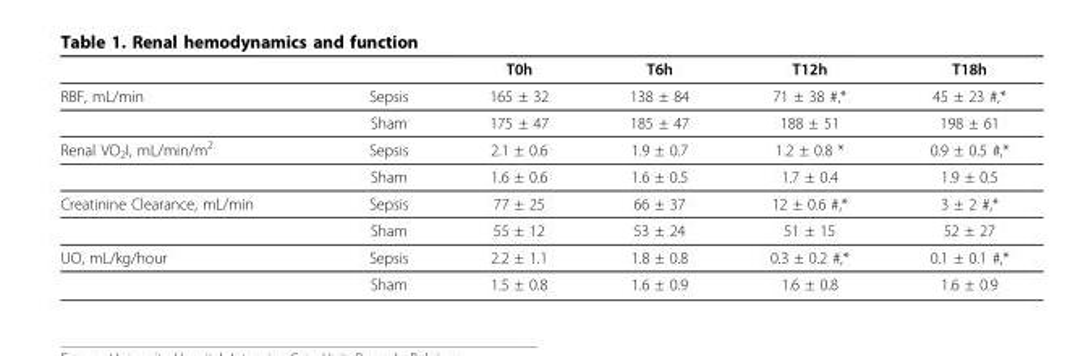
<table><thead><tr><td></td><td></td><td>T0h</td><td>T6h</td><td>T12h</td><td>T18h</td></tr></thead><tbody><tr><td rowspan="2">RBF, mL/min</td><td>Sepsis</td><td>165 ± 32</td><td>138 ± 84</td><td>71 ± 38 #,*</td><td>45 ± 23 #,*</td></tr><tr><td>Sham</td><td>175 ± 47</td><td>185 ± 47</td><td>188 ± 51</td><td>198 ± 61</td></tr><tr><td rowspan="2">Renal VO<sub>2</sub>I, mL/min/m<sup>2</sup></td><td>Sepsis</td><td>2.1 ± 0.6</td><td>1.9 ± 0.7</td><td>1.2 ± 0.8 *</td><td>0.9 ± 0.5 #,*</td></tr><tr><td>Sham</td><td>1.6 ± 0.6</td><td>1.6 ± 0.5</td><td>1.7 ± 0.4</td><td>1.9 ± 0.5</td></tr><tr><td rowspan="2">Creatinine Clearance, mL/min</td><td>Sepsis</td><td>77 ± 25</td><td>66 ± 37</td><td>12 ± 0.6 #,*</td><td>3 ± 2 #,*</td></tr><tr><td>Sham</td><td>55 ± 12</td><td>53 ± 24</td><td>51 ± 15</td><td>52 ± 27</td></tr><tr><td rowspan="2">UO, mL/kg/hour</td><td>Sepsis</td><td>2.2 ± 1.1</td><td>1.8 ± 0.8</td><td>0.3 ± 0.2 #,*</td><td>0.1 ± 0.1 #,*</td></tr><tr><td>Sham</td><td>1.5 ± 0.8</td><td>1.6 ± 0.9</td><td>1.6 ± 0.8</td><td>1.6 ± 0.9</td></tr></tbody></table>